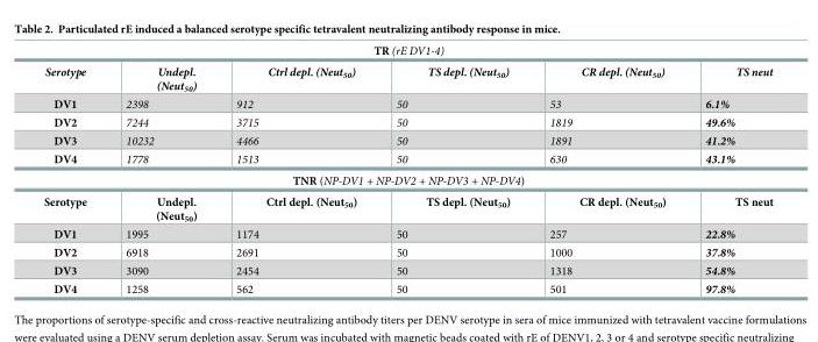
<table><tbody><tr><td colspan="6">TR (rE DV1-4)</td></tr><tr><td>Serotype</td><td>Undepl. (Neut<sub>50</sub>)</td><td>Ctrl depl. (Neut<sub>50</sub>)</td><td>TS depl. (Neut<sub>50</sub>)</td><td>CR depl. (Neut<sub>50</sub>)</td><td>TS neut</td></tr><tr><td>DV1</td><td>2398</td><td>912</td><td>50</td><td>53</td><td>6.1%</td></tr><tr><td>DV2</td><td>7244</td><td>3715</td><td>50</td><td>1819</td><td>49.6%</td></tr><tr><td>DV3</td><td>10232</td><td>4466</td><td>50</td><td>1891</td><td>41.2%</td></tr><tr><td>DV4</td><td>1778</td><td>1513</td><td>50</td><td>630</td><td>43.1%</td></tr><tr><td colspan="6">TNR (NP-DV1 + NP-DV2 + NP-DV3 + NP-DV4)</td></tr><tr><td>Serotype</td><td>Undepl. (Neut<sub>50</sub>)</td><td>Ctrl depl. (Neut<sub>50</sub>)</td><td>TS depl. (Neut<sub>50</sub>)</td><td>CR depl. (Neut<sub>50</sub>)</td><td>TS neut</td></tr><tr><td>DV1</td><td>1995</td><td>1174</td><td>50</td><td>257</td><td>22.8%</td></tr><tr><td>DV2</td><td>6918</td><td>2691</td><td>50</td><td>1000</td><td>37.8%</td></tr><tr><td>DV3</td><td>3090</td><td>2454</td><td>50</td><td>1318</td><td>54.8%</td></tr><tr><td>DV4</td><td>1258</td><td>562</td><td>50</td><td>501</td><td>97.8%</td></tr></tbody></table>